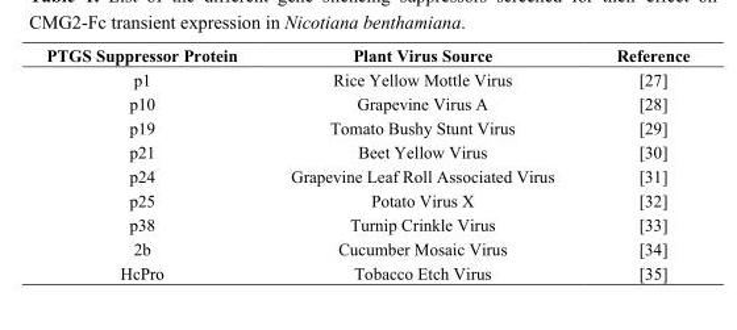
<table><thead><tr><td>PTGS Suppressor Protein</td><td>Plant Virus Source</td><td>Reference</td></tr></thead><tbody><tr><td>p1</td><td>Rice Yellow Mottle Virus</td><td>[27]</td></tr><tr><td>p10</td><td>Grapevine Virus A</td><td>[28]</td></tr><tr><td>p19</td><td>Tomato Bushy Stunt Virus</td><td>[29]</td></tr><tr><td>p21</td><td>Beet Yellow Virus</td><td>[30]</td></tr><tr><td>p24</td><td>Grapevine Leaf Roll Associated Virus</td><td>[31]</td></tr><tr><td>p25</td><td>Potato Virus X</td><td>[32]</td></tr><tr><td>p38</td><td>Turnip Crinkle Virus</td><td>[33]</td></tr><tr><td>2b</td><td>Cucumber Mosaic Virus</td><td>[34]</td></tr><tr><td>HcPro</td><td>Tobacco Etch Virus</td><td>[35]</td></tr></tbody></table>